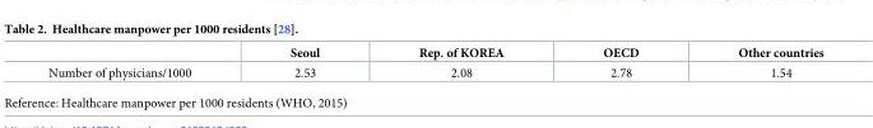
<table><thead><tr><td></td><td>Seoul</td><td>Rep. of KOREA</td><td>OECD</td><td>Other countries</td></tr></thead><tbody><tr><td>Number of physicians/1000</td><td>2.53</td><td>2.08</td><td>2.78</td><td>1.54</td></tr></tbody></table>